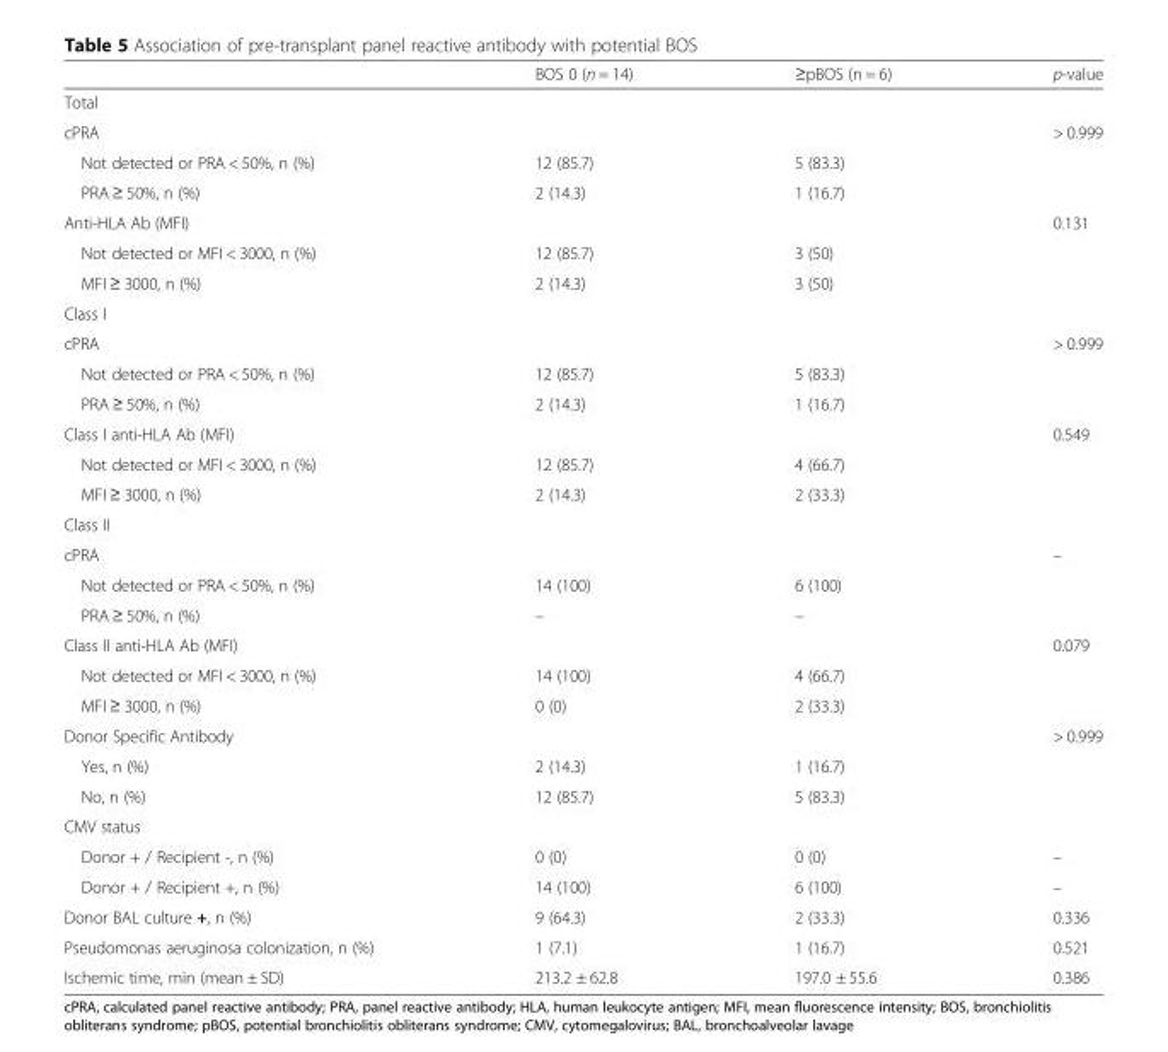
<table><thead><tr><td></td><td>BOS 0 (n = 14)</td><td>≥pBOS (n = 6)</td><td>p-value</td></tr></thead><tbody><tr><td colspan="4">Total</td></tr><tr><td>cPRA</td><td></td><td></td><td>&gt; 0.999</td></tr><tr><td>Not detected or PRA &lt; 50%, n (%)</td><td>12 (85.7)</td><td>5 (83.3)</td><td></td></tr><tr><td>PRA ≥ 50%, n (%)</td><td>2 (14.3)</td><td>1 (16.7)</td><td></td></tr><tr><td>Anti-HLA Ab (MFI)</td><td></td><td></td><td>0.131</td></tr><tr><td>Not detected or MFI &lt; 3000, n (%)</td><td>12 (85.7)</td><td>3 (50)</td><td></td></tr><tr><td>MFI ≥ 3000, n (%)</td><td>2 (14.3)</td><td>3 (50)</td><td></td></tr><tr><td colspan="4">Class I</td></tr><tr><td>cPRA</td><td></td><td></td><td>&gt; 0.999</td></tr><tr><td>Not detected or PRA &lt; 50%, n (%)</td><td>12 (85.7)</td><td>5 (83.3)</td><td></td></tr><tr><td>PRA ≥ 50%, n (%)</td><td>2 (14.3)</td><td>1 (16.7)</td><td></td></tr><tr><td>Class I anti-HLA Ab (MFI)</td><td></td><td></td><td>0.549</td></tr><tr><td>Not detected or MFI &lt; 3000, n (%)</td><td>12 (85.7)</td><td>4 (66.7)</td><td></td></tr><tr><td>MFI ≥ 3000, n (%)</td><td>2 (14.3)</td><td>2 (33.3)</td><td></td></tr><tr><td colspan="4">Class II</td></tr><tr><td>cPRA</td><td></td><td></td><td>–</td></tr><tr><td>Not detected or PRA &lt; 50%, n (%)</td><td>14 (100)</td><td>6 (100)</td><td></td></tr><tr><td>PRA ≥ 50%, n (%)</td><td>–</td><td>–</td><td></td></tr><tr><td>Class II anti-HLA Ab (MFI)</td><td></td><td></td><td>0.079</td></tr><tr><td>Not detected or MFI &lt; 3000, n (%)</td><td>14 (100)</td><td>4 (66.7)</td><td></td></tr><tr><td>MFI ≥ 3000, n (%)</td><td>0 (0)</td><td>2 (33.3)</td><td></td></tr><tr><td>Donor Specific Antibody</td><td></td><td></td><td>&gt; 0.999</td></tr><tr><td>Yes, n (%)</td><td>2 (14.3)</td><td>1 (16.7)</td><td></td></tr><tr><td>No, n (%)</td><td>12 (85.7)</td><td>5 (83.3)</td><td></td></tr><tr><td colspan="4">CMV status</td></tr><tr><td>Donor + / Recipient -, n (%)</td><td>0 (0)</td><td>0 (0)</td><td>–</td></tr><tr><td>Donor + / Recipient +, n (%)</td><td>14 (100)</td><td>6 (100)</td><td>–</td></tr><tr><td>Donor BAL culture +, n (%)</td><td>9 (64.3)</td><td>2 (33.3)</td><td>0.336</td></tr><tr><td>Pseudomonas aeruginosa colonization, n (%)</td><td>1 (7.1)</td><td>1 (16.7)</td><td>0.521</td></tr><tr><td>Ischemic time, min (mean ± SD)</td><td>213.2 ± 62.8</td><td>197.0 ± 55.6</td><td>0.386</td></tr></tbody></table>